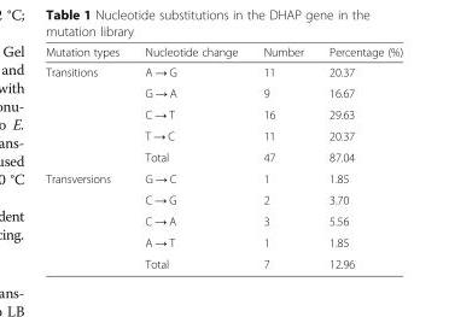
<table><thead><tr><td>Mutation types</td><td>Nucleotide change</td><td>Number</td><td>Percentage (%)</td></tr></thead><tbody><tr><td rowspan="5">Transitions</td><td>A → G</td><td>11</td><td>20.37</td></tr><tr><td>G → A</td><td>9</td><td>16.67</td></tr><tr><td>C → T</td><td>16</td><td>29.63</td></tr><tr><td>T → C</td><td>11</td><td>20.37</td></tr><tr><td>Total</td><td>47</td><td>87.04</td></tr><tr><td rowspan="5">Transversions</td><td>G → C</td><td>1</td><td>1.85</td></tr><tr><td>C → G</td><td>2</td><td>3.70</td></tr><tr><td>C → A</td><td>3</td><td>5.56</td></tr><tr><td>A → T</td><td>1</td><td>1.85</td></tr><tr><td>Total</td><td>7</td><td>12.96</td></tr></tbody></table>